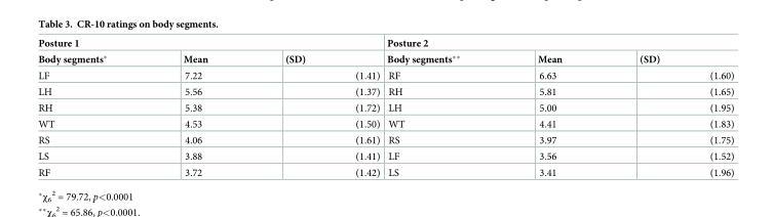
<table><thead><tr><td colspan="3">Posture 1</td><td colspan="3">Posture 2</td></tr><tr><td>Body segments*</td><td>Mean</td><td>(SD)</td><td>Body segments**</td><td>Mean</td><td>(SD)</td></tr></thead><tbody><tr><td>LF</td><td>7.22</td><td>(1.41)</td><td>RF</td><td>6.63</td><td>(1.60)</td></tr><tr><td>LH</td><td>5.56</td><td>(1.37)</td><td>RH</td><td>5.81</td><td>(1.65)</td></tr><tr><td>RH</td><td>5.38</td><td>(1.72)</td><td>LH</td><td>5.00</td><td>(1.95)</td></tr><tr><td>WT</td><td>4.53</td><td>(1.50)</td><td>WT</td><td>4.41</td><td>(1.83)</td></tr><tr><td>RS</td><td>4.06</td><td>(1.61)</td><td>RS</td><td>3.97</td><td>(1.75)</td></tr><tr><td>LS</td><td>3.88</td><td>(1.41)</td><td>LF</td><td>3.56</td><td>(1.52)</td></tr><tr><td>RF</td><td>3.72</td><td>(1.42)</td><td>LS</td><td>3.41</td><td>(1.96)</td></tr></tbody></table>